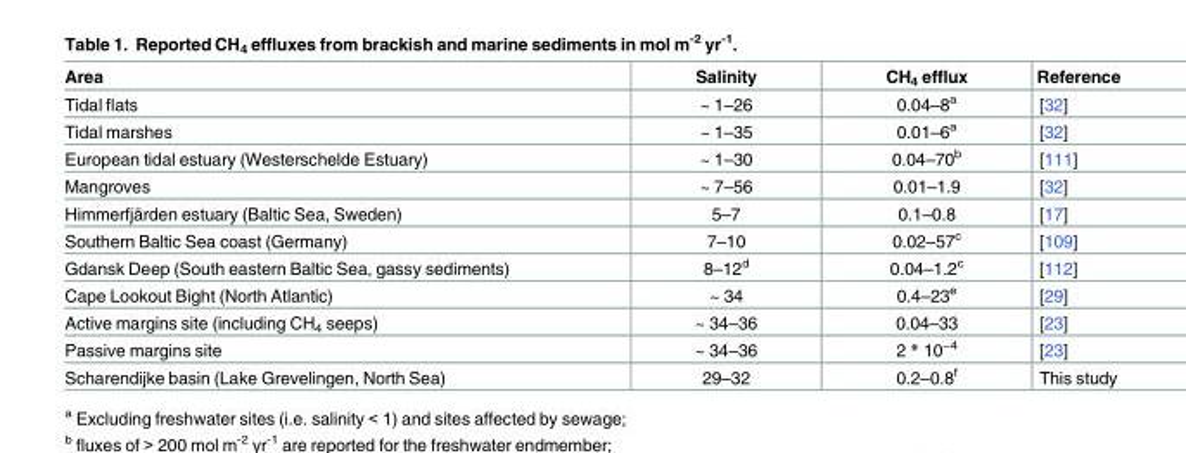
<table><thead><tr><td>Area</td><td>Salinity</td><td>CH<sub>4</sub> efflux</td><td>Reference</td></tr></thead><tbody><tr><td>Tidal flats</td><td>~ 1–26</td><td>0.04–8<sup>a</sup></td><td>[32]</td></tr><tr><td>Tidal marshes</td><td>~ 1–35</td><td>0.01–6<sup>a</sup></td><td>[32]</td></tr><tr><td>European tidal estuary (Westerschelde Estuary)</td><td>~ 1–30</td><td>0.04–70<sup>b</sup></td><td>[111]</td></tr><tr><td>Mangroves</td><td>~ 7–56</td><td>0.01–1.9</td><td>[32]</td></tr><tr><td>Himmerfjärden estuary (Baltic Sea, Sweden)</td><td>5–7</td><td>0.1–0.8</td><td>[17]</td></tr><tr><td>Southern Baltic Sea coast (Germany)</td><td>7–10</td><td>0.02–57<sup>c</sup></td><td>[109]</td></tr><tr><td>Gdansk Deep (South eastern Baltic Sea, gassy sediments)</td><td>8–12<sup>d</sup></td><td>0.04–1.2<sup>c</sup></td><td>[112]</td></tr><tr><td>Cape Lookout Bight (North Atlantic)</td><td>~ 34</td><td>0.4–23<sup>e</sup></td><td>[29]</td></tr><tr><td>Active margins site (including CH<sub>4</sub> seeps)</td><td>~ 34–36</td><td>0.04–33</td><td>[23]</td></tr><tr><td>Passive margins site</td><td>~ 34–36</td><td>2 * 10<sup>−4</sup></td><td>[23]</td></tr><tr><td>Scharendijke basin (Lake Grevelingen, North Sea)</td><td>29–32</td><td>0.2–0.8<sup>f</sup></td><td>This study</td></tr></tbody></table>